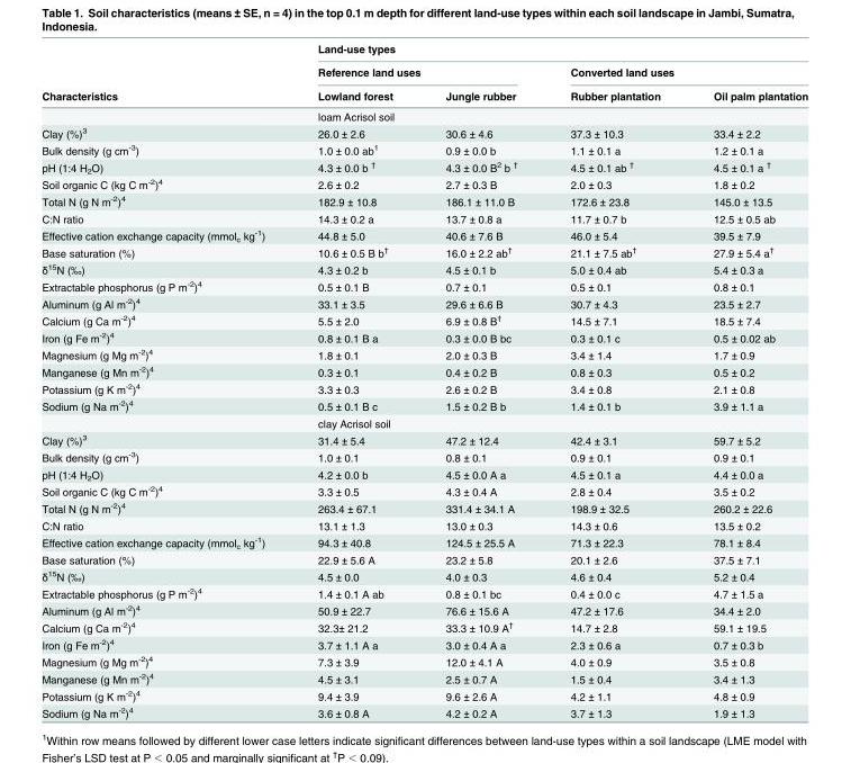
<table><thead><tr><td rowspan="3">Characteristics</td><td colspan="4">Land-use types</td></tr><tr><td colspan="2">Reference land uses</td><td colspan="2">Converted land uses</td></tr><tr><td>Lowland forest</td><td>Jungle rubber</td><td>Rubber plantation</td><td>Oil palm plantation</td></tr></thead><tbody><tr><td></td><td colspan="4">loam Acrisol soil</td></tr><tr><td>Clay (%)<sup>3</sup></td><td>26.0 ± 2.6</td><td>30.6 ± 4.6</td><td>37.3 ± 10.3</td><td>33.4 ± 2.2</td></tr><tr><td>Bulk density (g cm<sup>-3</sup>)</td><td>1.0 ± 0.0 ab<sup>1</sup></td><td>0.9 ± 0.0 b</td><td>1.1 ± 0.1 a</td><td>1.2 ± 0.1 a</td></tr><tr><td>pH (1:4 H<sub>2</sub>O)</td><td>4.3 ± 0.0 b <sup>†</sup></td><td>4.3 ± 0.0 B<sup>2</sup> b <sup>†</sup></td><td>4.5 ± 0.1 ab <sup>†</sup></td><td>4.5 ± 0.1 a <sup>†</sup></td></tr><tr><td>Soil organic C (kg C m<sup>-2</sup>)<sup>4</sup></td><td>2.6 ± 0.2</td><td>2.7 ± 0.3 B</td><td>2.0 ± 0.3</td><td>1.8 ± 0.2</td></tr><tr><td>Total N (g N m<sup>-2</sup>)<sup>4</sup></td><td>182.9 ± 10.8</td><td>186.1 ± 11.0 B</td><td>172.6 ± 23.8</td><td>145.0 ± 13.5</td></tr><tr><td>C:N ratio</td><td>14.3 ± 0.2 a</td><td>13.7 ± 0.8 a</td><td>11.7 ± 0.7 b</td><td>12.5 ± 0.5 ab</td></tr><tr><td>Effective cation exchange capacity (mmol<sub>c</sub> kg<sup>-1</sup>)</td><td>44.8 ± 5.0</td><td>40.6 ± 7.6 B</td><td>46.0 ± 5.4</td><td>39.5 ± 7.9</td></tr><tr><td>Base saturation (%)</td><td>10.6 ± 0.5 B b<sup>†</sup></td><td>16.0 ± 2.2 ab<sup>†</sup></td><td>21.1 ± 7.5 ab<sup>†</sup></td><td>27.9 ± 5.4 a<sup>†</sup></td></tr><tr><td>δ<sup>15</sup>N (‰)</td><td>4.3 ± 0.2 b</td><td>4.5 ± 0.1 b</td><td>5.0 ± 0.4 ab</td><td>5.4 ± 0.3 a</td></tr><tr><td>Extractable phosphorus (g P m<sup>-2</sup>)<sup>4</sup></td><td>0.5 ± 0.1 B</td><td>0.7 ± 0.1</td><td>0.5 ± 0.1</td><td>0.8 ± 0.1</td></tr><tr><td>Aluminum (g Al m<sup>-2</sup>)<sup>4</sup></td><td>33.1 ± 3.5</td><td>29.6 ± 6.6 B</td><td>30.7 ± 4.3</td><td>23.5 ± 2.7</td></tr><tr><td>Calcium (g Ca m<sup>-2</sup>)<sup>4</sup></td><td>5.5 ± 2.0</td><td>6.9 ± 0.8 B<sup>†</sup></td><td>14.5 ± 7.1</td><td>18.5 ± 7.4</td></tr><tr><td>Iron (g Fe m<sup>-2</sup>)<sup>4</sup></td><td>0.8 ± 0.1 B a</td><td>0.3 ± 0.0 B bc</td><td>0.3 ± 0.1 c</td><td>0.5 ± 0.02 ab</td></tr><tr><td>Magnesium (g Mg m<sup>-2</sup>)<sup>4</sup></td><td>1.8 ± 0.1</td><td>2.0 ± 0.3 B</td><td>3.4 ± 1.4</td><td>1.7 ± 0.9</td></tr><tr><td>Manganese (g Mn m<sup>-2</sup>)<sup>4</sup></td><td>0.3 ± 0.1</td><td>0.4 ± 0.2 B</td><td>0.8 ± 0.3</td><td>0.5 ± 0.2</td></tr><tr><td>Potassium (g K m<sup>-2</sup>)<sup>4</sup></td><td>3.3 ± 0.3</td><td>2.6 ± 0.2 B</td><td>3.4 ± 0.8</td><td>2.1 ± 0.8</td></tr><tr><td rowspan="2">Sodium (g Na m<sup>-2</sup>)<sup>4</sup></td><td>0.5 ± 0.1 B c</td><td>1.5 ± 0.2 B b</td><td>1.4 ± 0.1 b</td><td>3.9 ± 1.1 a</td></tr><tr><td colspan="4">clay Acrisol soil</td></tr><tr><td>Clay (%)<sup>3</sup></td><td>31.4 ± 5.4</td><td>47.2 ± 12.4</td><td>42.4 ± 3.1</td><td>59.7 ± 5.2</td></tr><tr><td>Bulk density (g cm<sup>-3</sup>)</td><td>1.0 ± 0.1</td><td>0.8 ± 0.1</td><td>0.9 ± 0.1</td><td>0.9 ± 0.1</td></tr><tr><td>pH (1:4 H<sub>2</sub>O)</td><td>4.2 ± 0.0 b</td><td>4.5 ± 0.0 A a</td><td>4.5 ± 0.1 a</td><td>4.4 ± 0.0 a</td></tr><tr><td>Soil organic C (kg C m<sup>-2</sup>)<sup>4</sup></td><td>3.3 ± 0.5</td><td>4.3 ± 0.4 A</td><td>2.8 ± 0.4</td><td>3.5 ± 0.2</td></tr><tr><td>Total N (g N m<sup>-2</sup>)<sup>4</sup></td><td>263.4 ± 67.1</td><td>331.4 ± 34.1 A</td><td>198.9 ± 32.5</td><td>260.2 ± 22.6</td></tr><tr><td>C:N ratio</td><td>13.1 ± 1.3</td><td>13.0 ± 0.3</td><td>14.3 ± 0.6</td><td>13.5 ± 0.2</td></tr><tr><td>Effective cation exchange capacity (mmol<sub>c</sub> kg<sup>-1</sup>)</td><td>94.3 ± 40.8</td><td>124.5 ± 25.5 A</td><td>71.3 ± 22.3</td><td>78.1 ± 8.4</td></tr><tr><td>Base saturation (%)</td><td>22.9 ± 5.6 A</td><td>23.2 ± 5.8</td><td>20.1 ± 2.6</td><td>37.5 ± 7.1</td></tr><tr><td>δ<sup>15</sup>N (‰)</td><td>4.5 ± 0.0</td><td>4.0 ± 0.3</td><td>4.6 ± 0.4</td><td>5.2 ± 0.4</td></tr><tr><td>Extractable phosphorus (g P m<sup>-2</sup>)<sup>4</sup></td><td>1.4 ± 0.1 A ab</td><td>0.8 ± 0.1 bc</td><td>0.4 ± 0.0 c</td><td>4.7 ± 1.5 a</td></tr><tr><td>Aluminum (g Al m<sup>-2</sup>)<sup>4</sup></td><td>50.9 ± 22.7</td><td>76.6 ± 15.6 A</td><td>47.2 ± 17.6</td><td>34.4 ± 2.0</td></tr><tr><td>Calcium (g Ca m<sup>-2</sup>)<sup>4</sup></td><td>32.3± 21.2</td><td>33.3 ± 10.9 A<sup>†</sup></td><td>14.7 ± 2.8</td><td>59.1 ± 19.5</td></tr><tr><td>Iron (g Fe m<sup>-2</sup>)<sup>4</sup></td><td>3.7 ± 1.1 A a</td><td>3.0 ± 0.4 A a</td><td>2.3 ± 0.6 a</td><td>0.7 ± 0.3 b</td></tr><tr><td>Magnesium (g Mg m<sup>-2</sup>)<sup>4</sup></td><td>7.3 ± 3.9</td><td>12.0 ± 4.1 A</td><td>4.0 ± 0.9</td><td>3.5 ± 0.8</td></tr><tr><td>Manganese (g Mn m<sup>-2</sup>)<sup>4</sup></td><td>4.5 ± 3.1</td><td>2.5 ± 0.7 A</td><td>1.5 ± 0.4</td><td>3.4 ± 1.3</td></tr><tr><td>Potassium (g K m<sup>-2</sup>)<sup>4</sup></td><td>9.4 ± 3.9</td><td>9.6 ± 2.6 A</td><td>4.2 ± 1.1</td><td>4.8 ± 0.9</td></tr><tr><td>Sodium (g Na m<sup>-2</sup>)<sup>4</sup></td><td>3.6 ± 0.8 A</td><td>4.2 ± 0.2 A</td><td>3.7 ± 1.3</td><td>1.9 ± 1.3</td></tr></tbody></table>